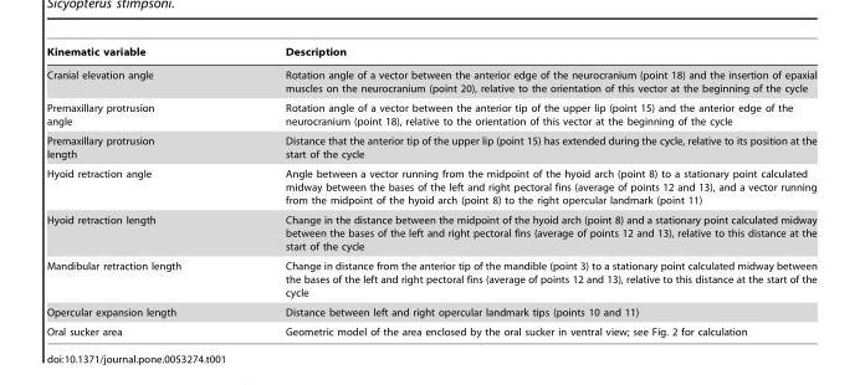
<table><thead><tr><td>Kinematic variable</td><td>Description</td></tr></thead><tbody><tr><td>Cranial elevation angle</td><td>Rotation angle of a vector between the anterior edge of the neurocranium (point 18) and the insertion of epaxial muscles on the neurocranium (point 20), relative to the orientation of this vector at the beginning of the cycle</td></tr><tr><td>Premaxillary protrusion angle</td><td>Rotation angle of a vector between the anterior tip of the upper lip (point 15) and the anterior edge of the neurocranium (point 18), relative to the orientation of this vector at the beginning of the cycle</td></tr><tr><td>Premaxillary protrusion length</td><td>Distance that the anterior tip of the upper lip (point 15) has extended during the cycle, relative to its position at the start of the cycle</td></tr><tr><td>Hyoid retraction angle</td><td>Angle between a vector running from the midpoint of the hyoid arch (point 8) to a stationary point calculated midway between the bases of the left and right pectoral fins (average of points 12 and 13), and a vector running from the midpoint of the hyoid arch (point 8) to the right opercular landmark (point 11)</td></tr><tr><td>Hyoid retraction length</td><td>Change in the distance between the midpoint of the hyoid arch (point 8) and a stationary point calculated midway between the bases of the left and right pectoral fins (average of points 12 and 13), relative to this distance at the start of the cycle</td></tr><tr><td>Mandibular retraction length</td><td>Change in distance from the anterior tip of the mandible (point 3) to a stationary point calculated midway between the bases of the left and right pectoral fins (average of points 12 and 13), relative to this distance at the start of the cycle</td></tr><tr><td>Opercular expansion length</td><td>Distance between left and right opercular landmark tips (points 10 and 11)</td></tr><tr><td>Oral sucker area</td><td>Geometric model of the area enclosed by the oral sucker in ventral view; see Fig. 2 for calculation</td></tr></tbody></table>